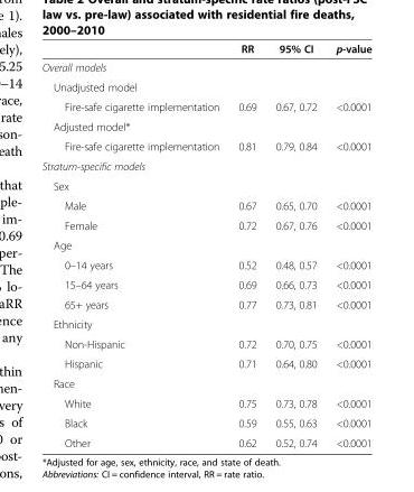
<table><thead><tr><td></td><td>RR</td><td>95% CI</td><td>p-value</td></tr></thead><tbody><tr><td colspan="4">Overall models</td></tr><tr><td colspan="4">Unadjusted model</td></tr><tr><td>Fire-safe cigarette implementation</td><td>0.69</td><td>0.67, 0.72</td><td>&lt;0.0001</td></tr><tr><td colspan="4">Adjusted model*</td></tr><tr><td>Fire-safe cigarette implementation</td><td>0.81</td><td>0.79, 0.84</td><td>&lt;0.0001</td></tr><tr><td colspan="4">Stratum-specific models</td></tr><tr><td colspan="4">Sex</td></tr><tr><td>Male</td><td>0.67</td><td>0.65, 0.70</td><td>&lt;0.0001</td></tr><tr><td>Female</td><td>0.72</td><td>0.67, 0.76</td><td>&lt;0.0001</td></tr><tr><td colspan="4">Age</td></tr><tr><td>0–14 years</td><td>0.52</td><td>0.48, 0.57</td><td>&lt;0.0001</td></tr><tr><td>15–64 years</td><td>0.69</td><td>0.66, 0.73</td><td>&lt;0.0001</td></tr><tr><td>65+ years</td><td>0.77</td><td>0.73, 0.81</td><td>&lt;0.0001</td></tr><tr><td colspan="4">Ethnicity</td></tr><tr><td>Non-Hispanic</td><td>0.72</td><td>0.70, 0.75</td><td>&lt;0.0001</td></tr><tr><td>Hispanic</td><td>0.71</td><td>0.64, 0.80</td><td>&lt;0.0001</td></tr><tr><td colspan="4">Race</td></tr><tr><td>White</td><td>0.75</td><td>0.73, 0.78</td><td>&lt;0.0001</td></tr><tr><td>Black</td><td>0.59</td><td>0.55, 0.63</td><td>&lt;0.0001</td></tr><tr><td>Other</td><td>0.62</td><td>0.52, 0.74</td><td>&lt;0.0001</td></tr></tbody></table>